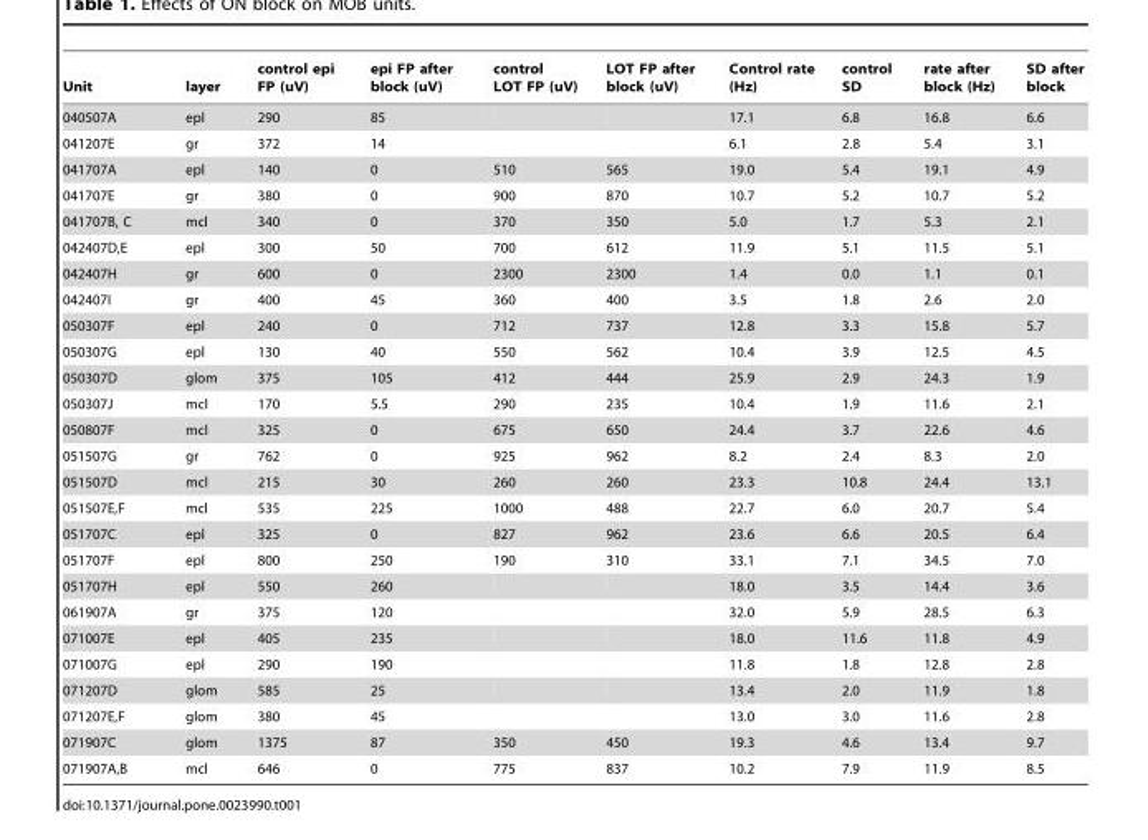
<table><thead><tr><td>Unit</td><td>layer</td><td>control epi FP (uV)</td><td>epi FP after block (uV)</td><td>control LOT FP (uV)</td><td>LOT FP after block (uV)</td><td>Control rate (Hz)</td><td>control SD</td><td>rate after block (Hz)</td><td>SD after block</td></tr></thead><tbody><tr><td>040507A</td><td>epl</td><td>290</td><td>85</td><td></td><td></td><td>17.1</td><td>6.8</td><td>16.8</td><td>6.6</td></tr><tr><td>041207E</td><td>gr</td><td>372</td><td>14</td><td></td><td></td><td>6.1</td><td>2.8</td><td>5.4</td><td>3.1</td></tr><tr><td>041707A</td><td>epl</td><td>140</td><td>0</td><td>510</td><td>565</td><td>19.0</td><td>5.4</td><td>19.1</td><td>4.9</td></tr><tr><td>041707E</td><td>gr</td><td>380</td><td>0</td><td>900</td><td>870</td><td>10.7</td><td>5.2</td><td>10.7</td><td>5.2</td></tr><tr><td>041707B, C</td><td>mcl</td><td>340</td><td>0</td><td>370</td><td>350</td><td>5.0</td><td>1.7</td><td>5.3</td><td>2.1</td></tr><tr><td>042407D,E</td><td>epl</td><td>300</td><td>50</td><td>700</td><td>612</td><td>11.9</td><td>5.1</td><td>11.5</td><td>5.1</td></tr><tr><td>042407H</td><td>gr</td><td>600</td><td>0</td><td>2300</td><td>2300</td><td>1.4</td><td>0.0</td><td>1.1</td><td>0.1</td></tr><tr><td>042407I</td><td>gr</td><td>400</td><td>45</td><td>360</td><td>400</td><td>3.5</td><td>1.8</td><td>2.6</td><td>2.0</td></tr><tr><td>050307F</td><td>epl</td><td>240</td><td>0</td><td>712</td><td>737</td><td>12.8</td><td>3.3</td><td>15.8</td><td>5.7</td></tr><tr><td>050307G</td><td>epl</td><td>130</td><td>40</td><td>550</td><td>562</td><td>10.4</td><td>3.9</td><td>12.5</td><td>4.5</td></tr><tr><td>050307D</td><td>glom</td><td>375</td><td>105</td><td>412</td><td>444</td><td>25.9</td><td>2.9</td><td>24.3</td><td>1.9</td></tr><tr><td>050307J</td><td>mcl</td><td>170</td><td>5.5</td><td>290</td><td>235</td><td>10.4</td><td>1.9</td><td>11.6</td><td>2.1</td></tr><tr><td>050807F</td><td>mcl</td><td>325</td><td>0</td><td>675</td><td>650</td><td>24.4</td><td>3.7</td><td>22.6</td><td>4.6</td></tr><tr><td>051507G</td><td>gr</td><td>762</td><td>0</td><td>925</td><td>962</td><td>8.2</td><td>2.4</td><td>8.3</td><td>2.0</td></tr><tr><td>051507D</td><td>mcl</td><td>215</td><td>30</td><td>260</td><td>260</td><td>23.3</td><td>10.8</td><td>24.4</td><td>13.1</td></tr><tr><td>051507E,F</td><td>mcl</td><td>535</td><td>225</td><td>1000</td><td>488</td><td>22.7</td><td>6.0</td><td>20.7</td><td>5.4</td></tr><tr><td>051707C</td><td>epl</td><td>325</td><td>0</td><td>827</td><td>962</td><td>23.6</td><td>6.6</td><td>20.5</td><td>6.4</td></tr><tr><td>051707F</td><td>epl</td><td>800</td><td>250</td><td>190</td><td>310</td><td>33.1</td><td>7.1</td><td>34.5</td><td>7.0</td></tr><tr><td>051707H</td><td>epl</td><td>550</td><td>260</td><td></td><td></td><td>18.0</td><td>3.5</td><td>14.4</td><td>3.6</td></tr><tr><td>061907A</td><td>gr</td><td>375</td><td>120</td><td></td><td></td><td>32.0</td><td>5.9</td><td>28.5</td><td>6.3</td></tr><tr><td>071007E</td><td>epl</td><td>405</td><td>235</td><td></td><td></td><td>18.0</td><td>11.6</td><td>11.8</td><td>4.9</td></tr><tr><td>071007G</td><td>epl</td><td>290</td><td>190</td><td></td><td></td><td>11.8</td><td>1.8</td><td>12.8</td><td>2.8</td></tr><tr><td>071207D</td><td>glom</td><td>585</td><td>25</td><td></td><td></td><td>13.4</td><td>2.0</td><td>11.9</td><td>1.8</td></tr><tr><td>071207E,F</td><td>glom</td><td>380</td><td>45</td><td></td><td></td><td>13.0</td><td>3.0</td><td>11.6</td><td>2.8</td></tr><tr><td>071907C</td><td>glom</td><td>1375</td><td>87</td><td>350</td><td>450</td><td>19.3</td><td>4.6</td><td>13.4</td><td>9.7</td></tr><tr><td>071907A,B</td><td>mcl</td><td>646</td><td>0</td><td>775</td><td>837</td><td>10.2</td><td>7.9</td><td>11.9</td><td>8.5</td></tr></tbody></table>